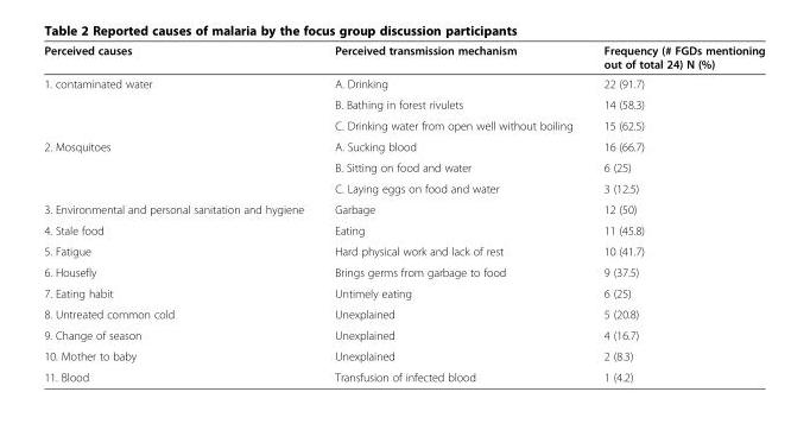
<table><thead><tr><td>Perceived causes</td><td>Perceived transmission mechanism</td><td>Frequency (# FGDs mentioning out of total 24) N (%)</td></tr></thead><tbody><tr><td rowspan="3">1. contaminated water</td><td>A. Drinking</td><td>22 (91.7)</td></tr><tr><td>B. Bathing in forest rivulets</td><td>14 (58.3)</td></tr><tr><td>C. Drinking water from open well without boiling</td><td>15 (62.5)</td></tr><tr><td rowspan="3">2. Mosquitoes</td><td>A. Sucking blood</td><td>16 (66.7)</td></tr><tr><td>B. Sitting on food and water</td><td>6 (25)</td></tr><tr><td>C. Laying eggs on food and water</td><td>3 (12.5)</td></tr><tr><td>3. Environmental and personal sanitation and hygiene</td><td>Garbage</td><td>12 (50)</td></tr><tr><td>4. Stale food</td><td>Eating</td><td>11 (45.8)</td></tr><tr><td>5. Fatigue</td><td>Hard physical work and lack of rest</td><td>10 (41.7)</td></tr><tr><td>6. Housefly</td><td>Brings germs from garbage to food</td><td>9 (37.5)</td></tr><tr><td>7. Eating habit</td><td>Untimely eating</td><td>6 (25)</td></tr><tr><td>8. Untreated common cold</td><td>Unexplained</td><td>5 (20.8)</td></tr><tr><td>9. Change of season</td><td>Unexplained</td><td>4 (16.7)</td></tr><tr><td>10. Mother to baby</td><td>Unexplained</td><td>2 (8.3)</td></tr><tr><td>11. Blood</td><td>Transfusion of infected blood</td><td>1 (4.2)</td></tr></tbody></table>